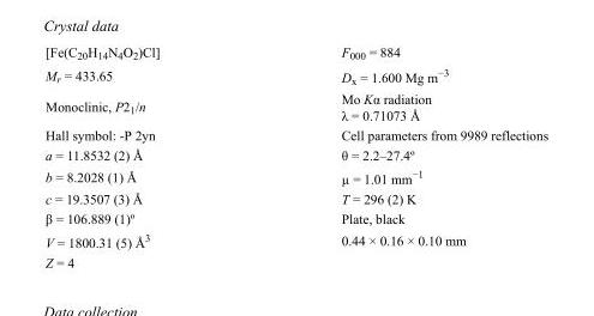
<table><tbody><tr><td>[Fe(C<sub>20</sub>H<sub>14</sub>N<sub>4</sub>O<sub>2</sub>)Cl]</td><td>F000 = 884</td></tr><tr><td>M<sub>r</sub> = 433.65</td><td>D<sub>x</sub> = 1.600 Mg m<sup>−3</sup></td></tr><tr><td>Monoclinic, P2<sub>1</sub>/n</td><td>Mo Kα radiation λ = 0.71073 Å</td></tr><tr><td>Hall symbol: -P 2yn</td><td>Cell parameters from 9989 reflections</td></tr><tr><td>a = 11.8532 (2) Å</td><td>θ = 2.2–27.4º</td></tr><tr><td>b = 8.2028 (1) Å</td><td>µ = 1.01 mm<sup>−1</sup></td></tr><tr><td>c = 19.3507 (3) Å</td><td>T = 296 (2) K</td></tr><tr><td>β = 106.889 (1)º</td><td>Plate, black</td></tr><tr><td>V = 1800.31 (5) Å<sup>3</sup></td><td>0.44 × 0.16 × 0.10 mm</td></tr><tr><td>Z = 4</td><td></td></tr></tbody></table>